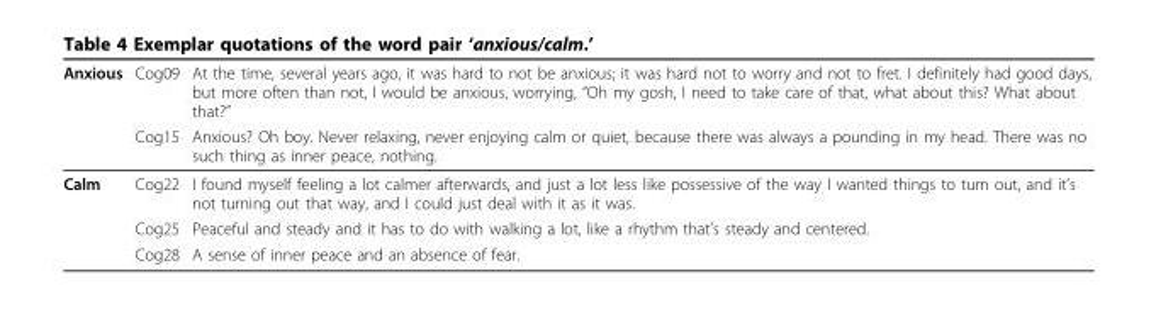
<table><thead><tr><td rowspan="2">Anxious</td><td rowspan="2">Cog09 Cog15</td><td rowspan="2">At the time, several years ago, it was hard to not be anxious; it was hard not to worry and not to fret. I definitely had good days, but more often than not, I would be anxious, worrying, “Oh my gosh, I need to take care of that, what about this? What about that?” Anxious? Oh boy. Never relaxing, never enjoying calm or quiet, because there was always a pounding in my head. There was no such thing as inner peace, nothing.</td></tr><tr></tr></thead><tbody><tr><td rowspan="3">Calm</td><td>Cog22</td><td>I found myself feeling a lot calmer afterwards, and just a lot less like possessive of the way I wanted things to turn out, and it’s not turning out that way, and I could just deal with it as it was.</td></tr><tr><td>Cog25</td><td>Peaceful and steady and it has to do with walking a lot, like a rhythm that’s steady and centered.</td></tr><tr><td>Cog28</td><td>A sense of inner peace and an absence of fear.</td></tr></tbody></table>